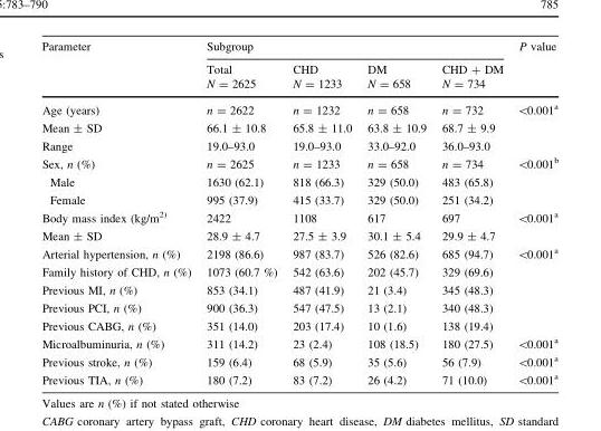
<table><thead><tr><td rowspan="2">Parameter</td><td colspan="4">Subgroup</td><td rowspan="2">P value</td></tr><tr><td>Total N = 2625</td><td>CHD N = 1233</td><td>DM N = 658</td><td>CHD + DM N = 734</td></tr></thead><tbody><tr><td>Age (years)</td><td>n = 2622</td><td>n = 1232</td><td>n = 658</td><td>n = 732</td><td rowspan="3">&lt;0.001<sup>a</sup></td></tr><tr><td>Mean ± SD</td><td>66.1 ± 10.8</td><td>65.8 ± 11.0</td><td>63.8 ± 10.9</td><td>68.7 ± 9.9</td></tr><tr><td>Range</td><td>19.0–93.0</td><td>19.0–93.0</td><td>33.0–92.0</td><td>36.0–93.0</td></tr><tr><td>Sex, n (%)</td><td>n = 2625</td><td>n = 1233</td><td>n = 658</td><td>n = 734</td><td rowspan="3">&lt;0.001<sup>b</sup></td></tr><tr><td>Male</td><td>1630 (62.1)</td><td>818 (66.3)</td><td>329 (50.0)</td><td>483 (65.8)</td></tr><tr><td>Female</td><td>995 (37.9)</td><td>415 (33.7)</td><td>329 (50.0)</td><td>251 (34.2)</td></tr><tr><td>Body mass index (kg/m<sup>2)</sup></td><td>2422</td><td>1108</td><td>617</td><td>697</td><td rowspan="2">&lt;0.001<sup>a</sup></td></tr><tr><td>Mean ± SD</td><td>28.9 ± 4.7</td><td>27.5 ± 3.9</td><td>30.1 ± 5.4</td><td>29.9 ± 4.7</td></tr><tr><td>Arterial hypertension, n (%)</td><td>2198 (86.6)</td><td>987 (83.7)</td><td>526 (82.6)</td><td>685 (94.7)</td><td rowspan="5">&lt;0.001<sup>a</sup></td></tr><tr><td>Family history of CHD, n (%)</td><td>1073 (60.7 %)</td><td>542 (63.6)</td><td>202 (45.7)</td><td>329 (69.6)</td></tr><tr><td>Previous MI, n (%)</td><td>853 (34.1)</td><td>487 (41.9)</td><td>21 (3.4)</td><td>345 (48.3)</td></tr><tr><td>Previous PCI, n (%)</td><td>900 (36.3)</td><td>547 (47.5)</td><td>13 (2.1)</td><td>340 (48.3)</td></tr><tr><td>Previous CABG, n (%)</td><td>351 (14.0)</td><td>203 (17.4)</td><td>10 (1.6)</td><td>138 (19.4)</td></tr><tr><td>Microalbuminuria, n (%)</td><td>311 (14.2)</td><td>23 (2.4)</td><td>108 (18.5)</td><td>180 (27.5)</td><td>&lt;0.001<sup>a</sup></td></tr><tr><td>Previous stroke, n (%)</td><td>159 (6.4)</td><td>68 (5.9)</td><td>35 (5.6)</td><td>56 (7.9)</td><td>&lt;0.001<sup>a</sup></td></tr><tr><td>Previous TIA, n (%)</td><td>180 (7.2)</td><td>83 (7.2)</td><td>26 (4.2)</td><td>71 (10.0)</td><td>&lt;0.001<sup>a</sup></td></tr></tbody></table>